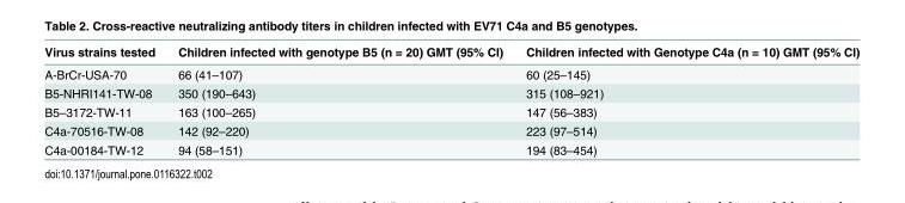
<table><thead><tr><td>Virus strains tested</td><td>Children infected with genotype B5 (n = 20) GMT (95% CI)</td><td>Children infected with Genotype C4a (n = 10) GMT (95% CI)</td></tr></thead><tbody><tr><td>A-BrCr-USA-70</td><td>66 (41–107)</td><td>60 (25–145)</td></tr><tr><td>B5-NHRI141-TW-08</td><td>350 (190–643)</td><td>315 (108–921)</td></tr><tr><td>B5–3172-TW-11</td><td>163 (100–265)</td><td>147 (56–383)</td></tr><tr><td>C4a-70516-TW-08</td><td>142 (92–220)</td><td>223 (97–514)</td></tr><tr><td>C4a-00184-TW-12</td><td>94 (58–151)</td><td>194 (83–454)</td></tr></tbody></table>